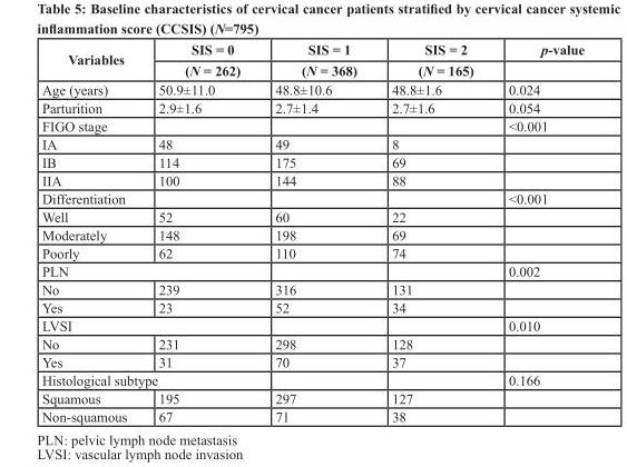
<table><thead><tr><td rowspan="2">Variables</td><td rowspan="2">SIS = 0 (N = 262)</td><td rowspan="2">SIS = 1 (N = 368)</td><td rowspan="2">SIS = 2 (N = 165)</td><td rowspan="2">p-value</td></tr><tr></tr></thead><tbody><tr><td>Age (years)</td><td>50.9±11.0</td><td>48.8±10.6</td><td>48.8±1.6</td><td>0.024</td></tr><tr><td>Parturition</td><td>2.9±1.6</td><td>2.7±1.4</td><td>2.7±1.6</td><td>0.054</td></tr><tr><td>FIGO stage</td><td></td><td></td><td></td><td>&lt;0.001</td></tr><tr><td>IA</td><td>48</td><td>49</td><td>8</td><td></td></tr><tr><td>IB</td><td>114</td><td>175</td><td>69</td><td></td></tr><tr><td>IIA</td><td>100</td><td>144</td><td>88</td><td></td></tr><tr><td>Differentiation</td><td></td><td></td><td></td><td>&lt;0.001</td></tr><tr><td>Well</td><td>52</td><td>60</td><td>22</td><td></td></tr><tr><td>Moderately</td><td>148</td><td>198</td><td>69</td><td></td></tr><tr><td>Poorly</td><td>62</td><td>110</td><td>74</td><td></td></tr><tr><td colspan="2">PLN</td><td></td><td></td><td>0.002</td></tr><tr><td>No</td><td>239</td><td>316</td><td>131</td><td></td></tr><tr><td>Yes</td><td>23</td><td>52</td><td>34</td><td></td></tr><tr><td colspan="2">LVSI</td><td></td><td></td><td>0.010</td></tr><tr><td>No</td><td>231</td><td>298</td><td>128</td><td></td></tr><tr><td>Yes</td><td>31</td><td>70</td><td>37</td><td></td></tr><tr><td colspan="2">Histological subtype</td><td></td><td></td><td>0.166</td></tr><tr><td>Squamous</td><td>195</td><td>297</td><td>127</td><td></td></tr><tr><td>Non-squamous</td><td>67</td><td>71</td><td>38</td><td></td></tr></tbody></table>